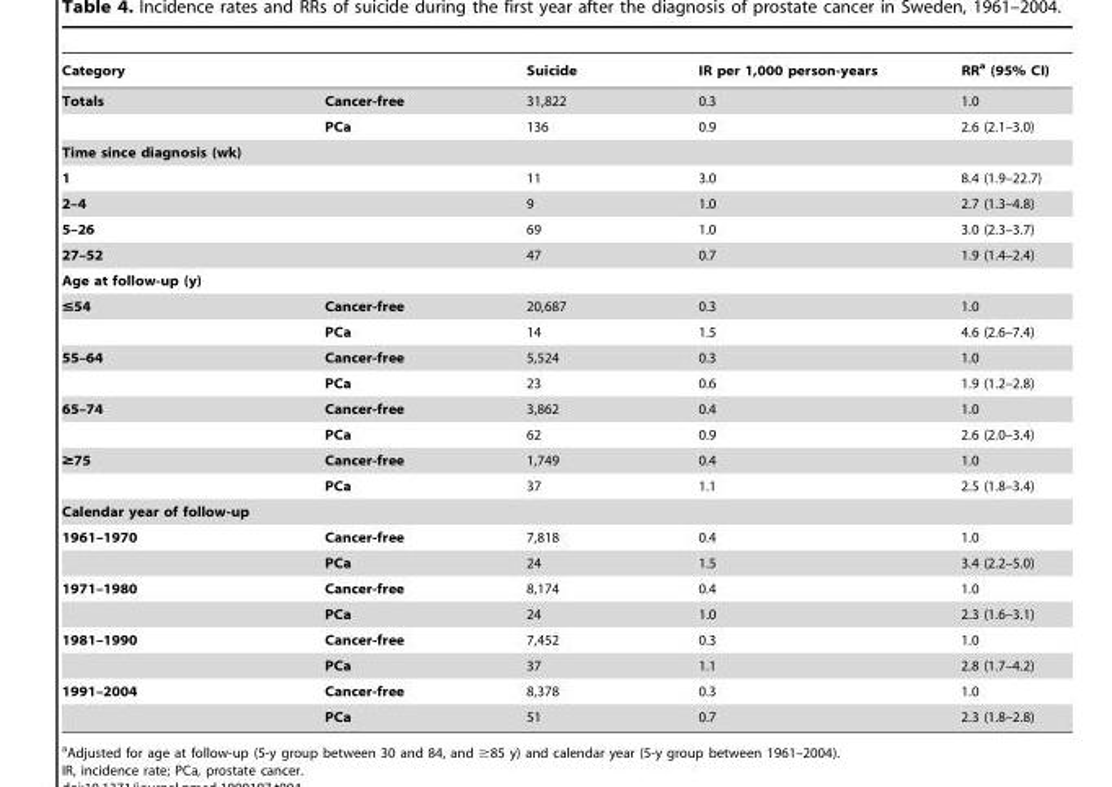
<table><thead><tr><td colspan="2">Category</td><td rowspan="2">Suicide 31,822</td><td rowspan="2">IR per 1,000 person-years 0.3</td><td rowspan="2">RR<sup>a</sup> (95% CI) 1.0</td></tr><tr><td>Totals</td><td>Cancer-free</td></tr></thead><tbody><tr><td></td><td>PCa</td><td>136</td><td>0.9</td><td>2.6 (2.1–3.0)</td></tr><tr><td colspan="5">Time since diagnosis (wk)</td></tr><tr><td>1</td><td></td><td>11</td><td>3.0</td><td>8.4 (1.9–22.7)</td></tr><tr><td>2–4</td><td></td><td>9</td><td>1.0</td><td>2.7 (1.3–4.8)</td></tr><tr><td>5–26</td><td></td><td>69</td><td>1.0</td><td>3.0 (2.3–3.7)</td></tr><tr><td>27–52</td><td></td><td>47</td><td>0.7</td><td>1.9 (1.4–2.4)</td></tr><tr><td colspan="5">Age at follow-up (y)</td></tr><tr><td rowspan="2">≤54</td><td>Cancer-free</td><td>20,687</td><td>0.3</td><td>1.0</td></tr><tr><td>PCa</td><td>14</td><td>1.5</td><td>4.6 (2.6–7.4)</td></tr><tr><td rowspan="2">55–64</td><td>Cancer-free</td><td>5,524</td><td>0.3</td><td>1.0</td></tr><tr><td>PCa</td><td>23</td><td>0.6</td><td>1.9 (1.2–2.8)</td></tr><tr><td rowspan="2">65–74</td><td>Cancer-free</td><td>3,862</td><td>0.4</td><td>1.0</td></tr><tr><td>PCa</td><td>62</td><td>0.9</td><td>2.6 (2.0–3.4)</td></tr><tr><td rowspan="2">≥75</td><td>Cancer-free</td><td>1,749</td><td>0.4</td><td>1.0</td></tr><tr><td>PCa</td><td>37</td><td>1.1</td><td>2.5 (1.8–3.4)</td></tr><tr><td colspan="5">Calendar year of follow-up</td></tr><tr><td rowspan="2">1961–1970</td><td>Cancer-free</td><td>7,818</td><td>0.4</td><td>1.0</td></tr><tr><td>PCa</td><td>24</td><td>1.5</td><td>3.4 (2.2–5.0)</td></tr><tr><td rowspan="2">1971–1980</td><td>Cancer-free</td><td>8,174</td><td>0.4</td><td>1.0</td></tr><tr><td>PCa</td><td>24</td><td>1.0</td><td>2.3 (1.6–3.1)</td></tr><tr><td rowspan="2">1981–1990</td><td>Cancer-free</td><td>7,452</td><td>0.3</td><td>1.0</td></tr><tr><td>PCa</td><td>37</td><td>1.1</td><td>2.8 (1.7–4.2)</td></tr><tr><td rowspan="2">1991–2004</td><td>Cancer-free</td><td>8,378</td><td>0.3</td><td>1.0</td></tr><tr><td>PCa</td><td>51</td><td>0.7</td><td>2.3 (1.8–2.8)</td></tr></tbody></table>